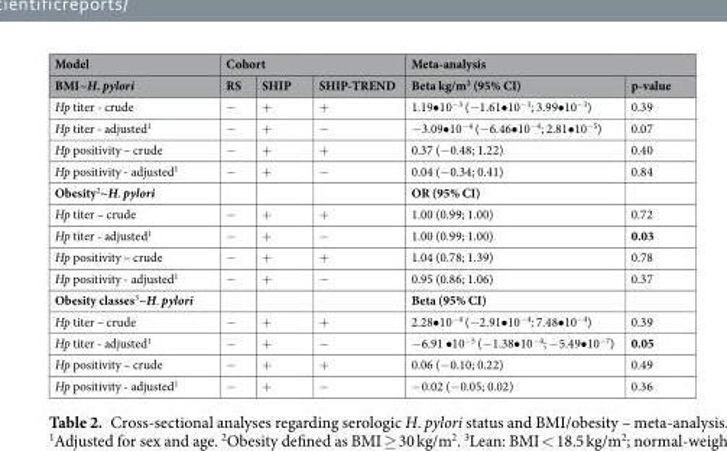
<table><thead><tr><td rowspan="2">Model BMI~H. pylori</td><td colspan="3">Cohort</td><td colspan="2">Meta-analysis</td></tr><tr><td>RS</td><td>SHIP</td><td>SHIP-TREND</td><td>Beta kg/m<sup>2</sup> (95% CI)</td><td>p-value</td></tr></thead><tbody><tr><td>Hp titer - crude</td><td>−</td><td>+</td><td>+</td><td>1.19•10<sup>−3</sup> (−1.61•10<sup>−3</sup>; 3.99•10<sup>−3</sup>)</td><td>0.39</td></tr><tr><td>Hp titer - adjusted<sup>1</sup></td><td>−</td><td>+</td><td>−</td><td>−3.09•10<sup>−4</sup> (−6.46•10<sup>−4</sup>; 2.81•10<sup>−5</sup>)</td><td>0.07</td></tr><tr><td>Hp positivity – crude</td><td>−</td><td>+</td><td>+</td><td>0.37 (−0.48; 1.22)</td><td>0.40</td></tr><tr><td>Hp positivity - adjusted<sup>1</sup></td><td>−</td><td>+</td><td>−</td><td>0.04 (−0.34; 0.41)</td><td>0.84</td></tr><tr><td>Obesity<sup>2</sup>~H. pylori</td><td></td><td></td><td></td><td>OR (95% CI)</td><td></td></tr><tr><td>Hp titer – crude</td><td>−</td><td>+</td><td>+</td><td>1.00 (0.99; 1.00)</td><td>0.72</td></tr><tr><td>Hp titer - adjusted<sup>1</sup></td><td>−</td><td>+</td><td>−</td><td>1.00 (0.99; 1.00)</td><td>0.03</td></tr><tr><td>Hp positivity – crude</td><td>−</td><td>+</td><td>+</td><td>1.04 (0.78; 1.39)</td><td>0.78</td></tr><tr><td>Hp positivity - adjusted<sup>1</sup></td><td>−</td><td>+</td><td>−</td><td>0.95 (0.86; 1.06)</td><td>0.37</td></tr><tr><td>Obesity classes<sup>3</sup>~H. pylori</td><td></td><td></td><td></td><td>Beta (95% CI)</td><td></td></tr><tr><td>Hp titer – crude</td><td>−</td><td>+</td><td>+</td><td>2.28•10<sup>−4</sup> (−2.91•10<sup>−4</sup>; 7.48•10<sup>−4</sup>)</td><td>0.39</td></tr><tr><td>Hp titer - adjusted<sup>1</sup></td><td>−</td><td>+</td><td>−</td><td>−6.91 •10<sup>−5</sup> (−1.38•10<sup>−4</sup>; −5.49•10<sup>−7</sup>)</td><td>0.05</td></tr><tr><td>Hp positivity – crude</td><td>−</td><td>+</td><td>+</td><td>0.06 (−0.10; 0.22)</td><td>0.49</td></tr><tr><td>Hp positivity - adjusted<sup>1</sup></td><td>−</td><td>+</td><td>−</td><td>−0.02 (−0.05; 0.02)</td><td>0.36</td></tr></tbody></table>